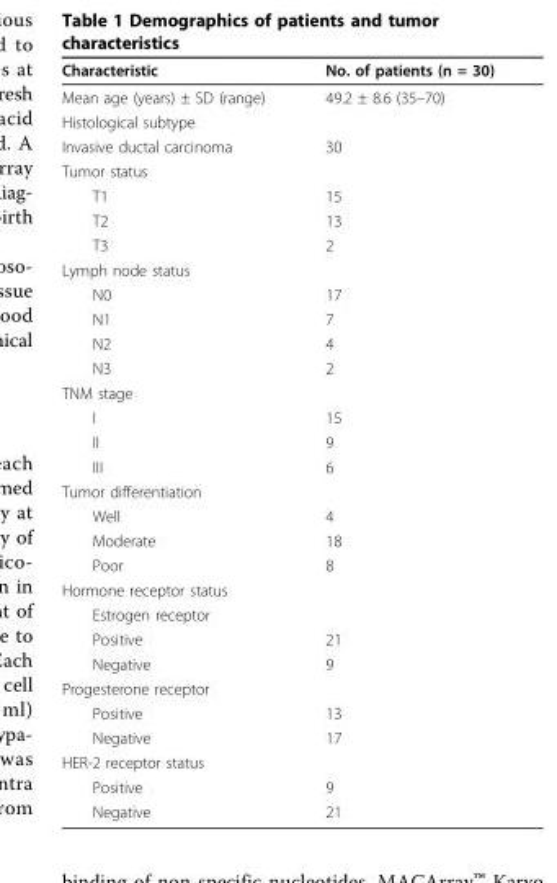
<table><thead><tr><td>Characteristic</td><td>No. of patients (n = 30)</td></tr></thead><tbody><tr><td>Mean age (years) ± SD (range)</td><td>49.2 ± 8.6 (35–70)</td></tr><tr><td colspan="2">Histological subtype</td></tr><tr><td>Invasive ductal carcinoma</td><td>30</td></tr><tr><td colspan="2">Tumor status</td></tr><tr><td>T1</td><td>15</td></tr><tr><td>T2</td><td>13</td></tr><tr><td>T3</td><td>2</td></tr><tr><td colspan="2">Lymph node status</td></tr><tr><td>N0</td><td>17</td></tr><tr><td>N1</td><td>7</td></tr><tr><td>N2</td><td>4</td></tr><tr><td>N3</td><td>2</td></tr><tr><td colspan="2">TNM stage</td></tr><tr><td>I</td><td>15</td></tr><tr><td>II</td><td>9</td></tr><tr><td>III</td><td>6</td></tr><tr><td colspan="2">Tumor differentiation</td></tr><tr><td>Well</td><td>4</td></tr><tr><td>Moderate</td><td>18</td></tr><tr><td>Poor</td><td>8</td></tr><tr><td colspan="2">Hormone receptor status</td></tr><tr><td colspan="2">Estrogen receptor</td></tr><tr><td>Positive</td><td>21</td></tr><tr><td>Negative</td><td>9</td></tr><tr><td colspan="2">Progesterone receptor</td></tr><tr><td>Positive</td><td>13</td></tr><tr><td>Negative</td><td>17</td></tr><tr><td colspan="2">HER-2 receptor status</td></tr><tr><td>Positive</td><td>9</td></tr><tr><td>Negative</td><td>21</td></tr></tbody></table>